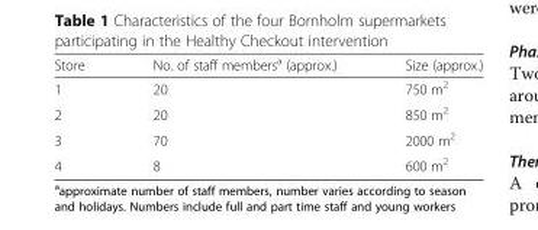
<table><thead><tr><td>Store</td><td>No. of staff members<sup>a</sup> (approx.)</td><td>Size (approx.)</td></tr></thead><tbody><tr><td>1</td><td>20</td><td>750 m<sup>2</sup></td></tr><tr><td>2</td><td>20</td><td>850 m<sup>2</sup></td></tr><tr><td>3</td><td>70</td><td>2000 m<sup>2</sup></td></tr><tr><td>4</td><td>8</td><td>600 m<sup>2</sup></td></tr></tbody></table>